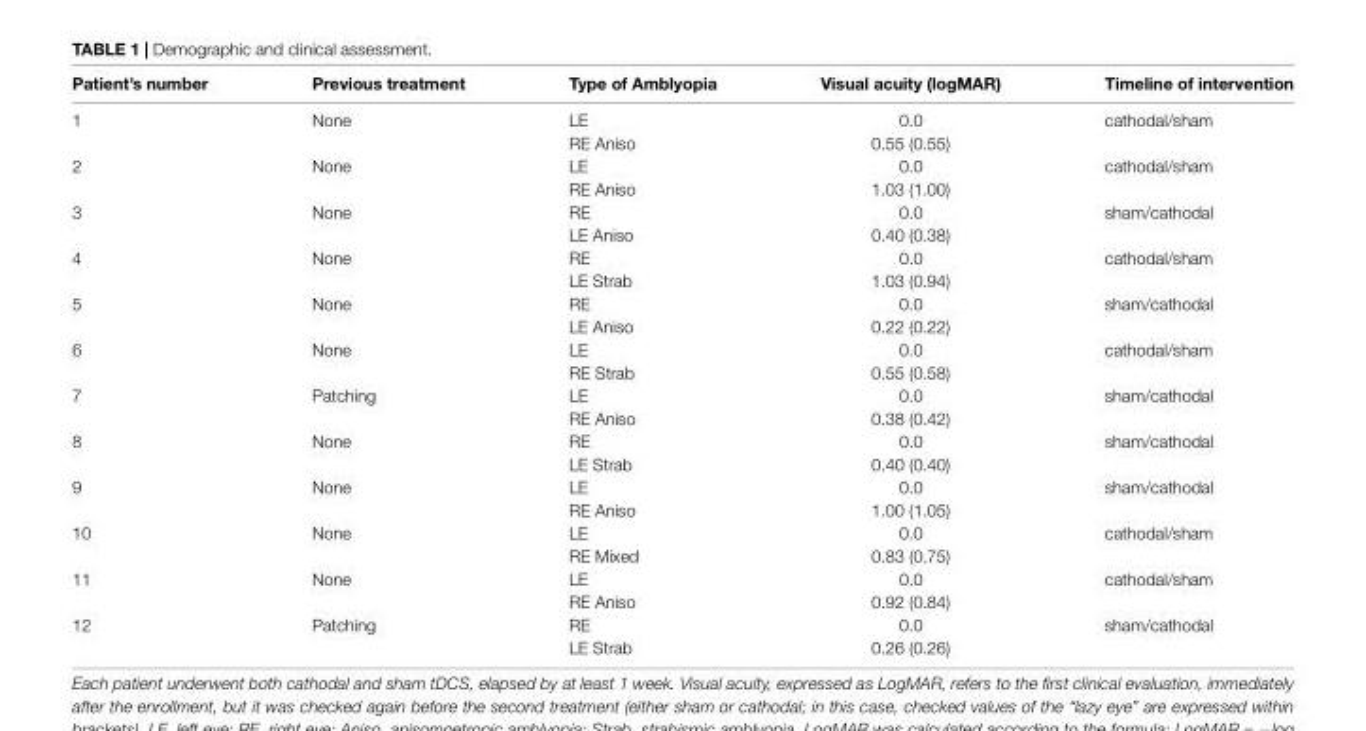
<table><thead><tr><td>Patient’s number</td><td>Previous treatment</td><td>Type of Amblyopia</td><td>Visual acuity (logMAR)</td><td>Timeline of intervention</td></tr></thead><tbody><tr><td rowspan="2">1</td><td>None</td><td>LE</td><td>0.0</td><td>cathodal/sham</td></tr><tr><td></td><td>RE Aniso</td><td>0.55 (0.55)</td><td></td></tr><tr><td rowspan="2">2</td><td>None</td><td>LE</td><td>0.0</td><td>cathodal/sham</td></tr><tr><td></td><td>RE Aniso</td><td>1.03 (1.00)</td><td></td></tr><tr><td rowspan="2">3</td><td>None</td><td>RE</td><td>0.0</td><td>sham/cathodal</td></tr><tr><td></td><td>LE Aniso</td><td>0.40 (0.38)</td><td></td></tr><tr><td rowspan="2">4</td><td>None</td><td>RE</td><td>0.0</td><td>cathodal/sham</td></tr><tr><td></td><td>LE Strab</td><td>1.03 (0.94)</td><td></td></tr><tr><td rowspan="2">5</td><td>None</td><td>RE</td><td>0.0</td><td>sham/cathodal</td></tr><tr><td></td><td>LE Aniso</td><td>0.22 (0.22)</td><td></td></tr><tr><td rowspan="2">6</td><td>None</td><td>LE</td><td>0.0</td><td>cathodal/sham</td></tr><tr><td></td><td>RE Strab</td><td>0.55 (0.58)</td><td></td></tr><tr><td rowspan="2">7</td><td>Patching</td><td>LE</td><td>0.0</td><td>sham/cathodal</td></tr><tr><td></td><td>RE Aniso</td><td>0.38 (0.42)</td><td></td></tr><tr><td rowspan="2">8</td><td>None</td><td>RE</td><td>0.0</td><td>sham/cathodal</td></tr><tr><td></td><td>LE Strab</td><td>0.40 (0.40)</td><td></td></tr><tr><td rowspan="2">9</td><td>None</td><td>LE</td><td>0.0</td><td>sham/cathodal</td></tr><tr><td></td><td>RE Aniso</td><td>1.00 (1.05)</td><td></td></tr><tr><td rowspan="2">10</td><td>None</td><td>LE</td><td>0.0</td><td>cathodal/sham</td></tr><tr><td></td><td>RE Mixed</td><td>0.83 (0.75)</td><td></td></tr><tr><td rowspan="2">11</td><td>None</td><td>LE</td><td>0.0</td><td>cathodal/sham</td></tr><tr><td></td><td>RE Aniso</td><td>0.92 (0.84)</td><td></td></tr><tr><td rowspan="2">12</td><td>Patching</td><td>RE</td><td>0.0</td><td>sham/cathodal</td></tr><tr><td></td><td>LE Strab</td><td>0.26 (0.26)</td><td></td></tr></tbody></table>